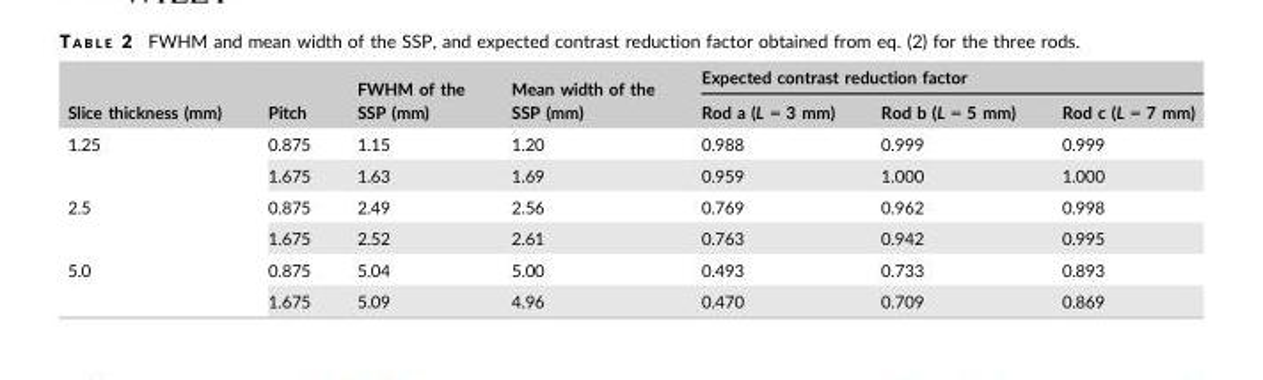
<table><thead><tr><td rowspan="2">Slice thickness (mm)</td><td rowspan="2">Pitch</td><td rowspan="2">FWHM of the SSP (mm)</td><td rowspan="2">Mean width of the SSP (mm)</td><td colspan="3">Expected contrast reduction factor</td></tr><tr><td>Rod a (L = 3 mm)</td><td>Rod b (L = 5 mm)</td><td>Rod c (L = 7 mm)</td></tr></thead><tbody><tr><td rowspan="2">1.25</td><td>0.875</td><td>1.15</td><td>1.20</td><td>0.988</td><td>0.999</td><td>0.999</td></tr><tr><td>1.675</td><td>1.63</td><td>1.69</td><td>0.959</td><td>1.000</td><td>1.000</td></tr><tr><td rowspan="2">2.5</td><td>0.875</td><td>2.49</td><td>2.56</td><td>0.769</td><td>0.962</td><td>0.998</td></tr><tr><td>1.675</td><td>2.52</td><td>2.61</td><td>0.763</td><td>0.942</td><td>0.995</td></tr><tr><td rowspan="2">5.0</td><td>0.875</td><td>5.04</td><td>5.00</td><td>0.493</td><td>0.733</td><td>0.893</td></tr><tr><td>1.675</td><td>5.09</td><td>4.96</td><td>0.470</td><td>0.709</td><td>0.869</td></tr></tbody></table>